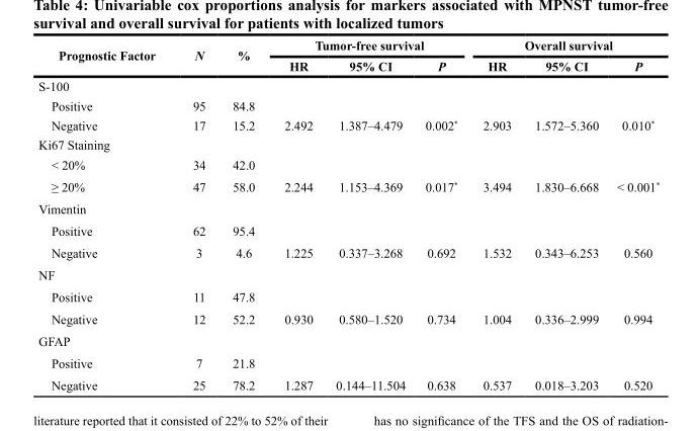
<table><thead><tr><td rowspan="2">Prognostic Factor</td><td rowspan="2">N</td><td rowspan="2">%</td><td colspan="3">Tumor-free survival</td><td colspan="3">Overall survival</td></tr><tr><td>HR</td><td>95% CI</td><td>P</td><td>HR</td><td>95% CI</td><td>P</td></tr></thead><tbody><tr><td colspan="9">S-100</td></tr><tr><td>Positive</td><td>95</td><td>84.8</td><td></td><td></td><td></td><td></td><td></td><td></td></tr><tr><td>Negative</td><td>17</td><td>15.2</td><td>2.492</td><td>1.387–4.479</td><td>0.002*</td><td>2.903</td><td>1.572–5.360</td><td>0.010*</td></tr><tr><td colspan="9">Ki67 Staining</td></tr><tr><td>&lt; 20%</td><td>34</td><td>42.0</td><td></td><td></td><td></td><td></td><td></td><td></td></tr><tr><td>≥ 20%</td><td>47</td><td>58.0</td><td>2.244</td><td>1.153–4.369</td><td>0.017*</td><td>3.494</td><td>1.830–6.668</td><td>&lt; 0.001*</td></tr><tr><td colspan="9">Vimentin</td></tr><tr><td>Positive</td><td>62</td><td>95.4</td><td></td><td></td><td></td><td></td><td></td><td></td></tr><tr><td>Negative</td><td>3</td><td>4.6</td><td>1.225</td><td>0.337–3.268</td><td>0.692</td><td>1.532</td><td>0.343–6.253</td><td>0.560</td></tr><tr><td colspan="9">NF</td></tr><tr><td>Positive</td><td>11</td><td>47.8</td><td></td><td></td><td></td><td></td><td></td><td></td></tr><tr><td>Negative</td><td>12</td><td>52.2</td><td>0.930</td><td>0.580–1.520</td><td>0.734</td><td>1.004</td><td>0.336–2.999</td><td>0.994</td></tr><tr><td colspan="9">GFAP</td></tr><tr><td>Positive</td><td>7</td><td>21.8</td><td></td><td></td><td></td><td></td><td></td><td></td></tr><tr><td>Negative</td><td>25</td><td>78.2</td><td>1.287</td><td>0.144–11.504</td><td>0.638</td><td>0.537</td><td>0.018–3.203</td><td>0.520</td></tr></tbody></table>